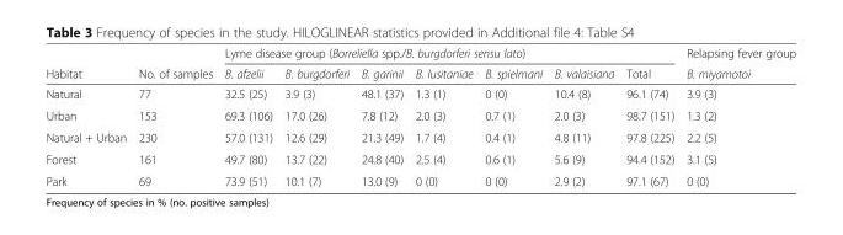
<table><thead><tr><td rowspan="2">Habitat</td><td rowspan="2">No. of samples</td><td colspan="7">Lyme disease group (Borreliella spp./B. burgdorferi sensu lato)</td><td rowspan="2">Relapsing fever group B. miyamotoi</td></tr><tr><td>B. afzelii</td><td>B. burgdorferi</td><td>B. garinii</td><td>B. lusitaniae</td><td>B. spielmani</td><td>B. valaisiana</td><td>Total</td></tr></thead><tbody><tr><td>Natural</td><td>77</td><td>32.5 (25)</td><td>3.9 (3)</td><td>48.1 (37)</td><td>1.3 (1)</td><td>0 (0)</td><td>10.4 (8)</td><td>96.1 (74)</td><td>3.9 (3)</td></tr><tr><td>Urban</td><td>153</td><td>69.3 (106)</td><td>17.0 (26)</td><td>7.8 (12)</td><td>2.0 (3)</td><td>0.7 (1)</td><td>2.0 (3)</td><td>98.7 (151)</td><td>1.3 (2)</td></tr><tr><td>Natural + Urban</td><td>230</td><td>57.0 (131)</td><td>12.6 (29)</td><td>21.3 (49)</td><td>1.7 (4)</td><td>0.4 (1)</td><td>4.8 (11)</td><td>97.8 (225)</td><td>2.2 (5)</td></tr><tr><td>Forest</td><td>161</td><td>49.7 (80)</td><td>13.7 (22)</td><td>24.8 (40)</td><td>2.5 (4)</td><td>0.6 (1)</td><td>5.6 (9)</td><td>94.4 (152)</td><td>3.1 (5)</td></tr><tr><td>Park</td><td>69</td><td>73.9 (51)</td><td>10.1 (7)</td><td>13.0 (9)</td><td>0 (0)</td><td>0 (0)</td><td>2.9 (2)</td><td>97.1 (67)</td><td>0 (0)</td></tr></tbody></table>